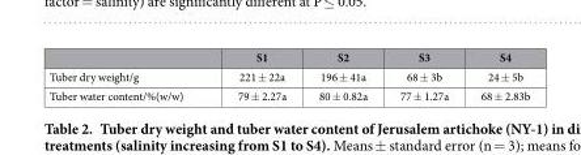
<table><thead><tr><td></td><td>S1</td><td>S2</td><td>S3</td><td>S4</td></tr></thead><tbody><tr><td>Tuber dry weight/g</td><td>221 ± 22a</td><td>196 ± 41a</td><td>68 ± 3b</td><td>24 ± 5b</td></tr><tr><td>Tuber water content/%(w/w)</td><td>79 ± 2.27a</td><td>80 ± 0.82a</td><td>77 ± 1.27a</td><td>68 ± 2.83b</td></tr></tbody></table>